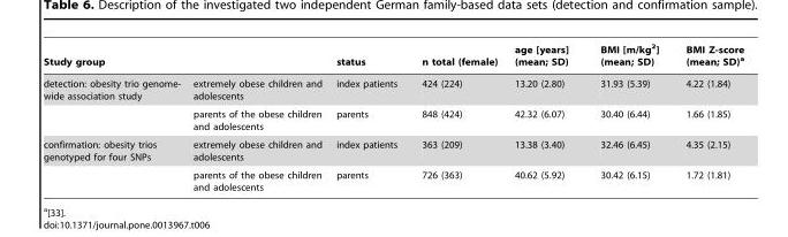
<table><thead><tr><td colspan="2">Study group</td><td rowspan="2">status index patients</td><td rowspan="2">n total (female) 424 (224)</td><td rowspan="2">age [years] (mean; SD) 13.20 (2.80)</td><td rowspan="2">BMI [m/kg<sup>2</sup>] (mean; SD) 31.93 (5.39)</td><td rowspan="2">BMI Z-score (mean; SD)<sup>a</sup> 4.22 (1.84)</td></tr><tr><td>detection: obesity trio genome- wide association study</td><td>extremely obese children and adolescents</td></tr></thead><tbody><tr><td></td><td>parents of the obese children and adolescents</td><td>parents</td><td>848 (424)</td><td>42.32 (6.07)</td><td>30.40 (6.44)</td><td>1.66 (1.85)</td></tr><tr><td rowspan="2">confirmation: obesity trios genotyped for four SNPs</td><td>extremely obese children and adolescents</td><td>index patients</td><td>363 (209)</td><td>13.38 (3.40)</td><td>32.46 (6.45)</td><td>4.35 (2.15)</td></tr><tr><td>parents of the obese children and adolescents</td><td>parents</td><td>726 (363)</td><td>40.62 (5.92)</td><td>30.42 (6.15)</td><td>1.72 (1.81)</td></tr></tbody></table>